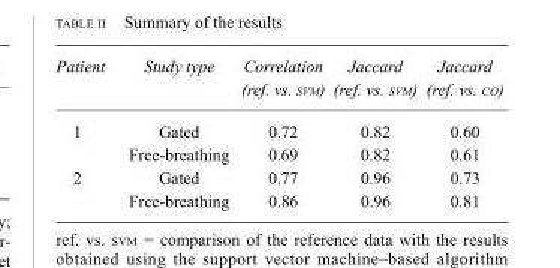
<table><thead><tr><td>Patient</td><td>Study type</td><td>Correlation (ref. vs. sVm)</td><td>Jaccard (ref. vs. sVm)</td><td>Jaccard (ref. vs. CO)</td></tr></thead><tbody><tr><td rowspan="2">1</td><td>Gated</td><td>0.72</td><td>0.82</td><td>0.60</td></tr><tr><td>Free-breathing</td><td>0.69</td><td>0.82</td><td>0.61</td></tr><tr><td rowspan="2">2</td><td>Gated</td><td>0.77</td><td>0.96</td><td>0.73</td></tr><tr><td>Free-breathing</td><td>0.86</td><td>0.96</td><td>0.81</td></tr></tbody></table>